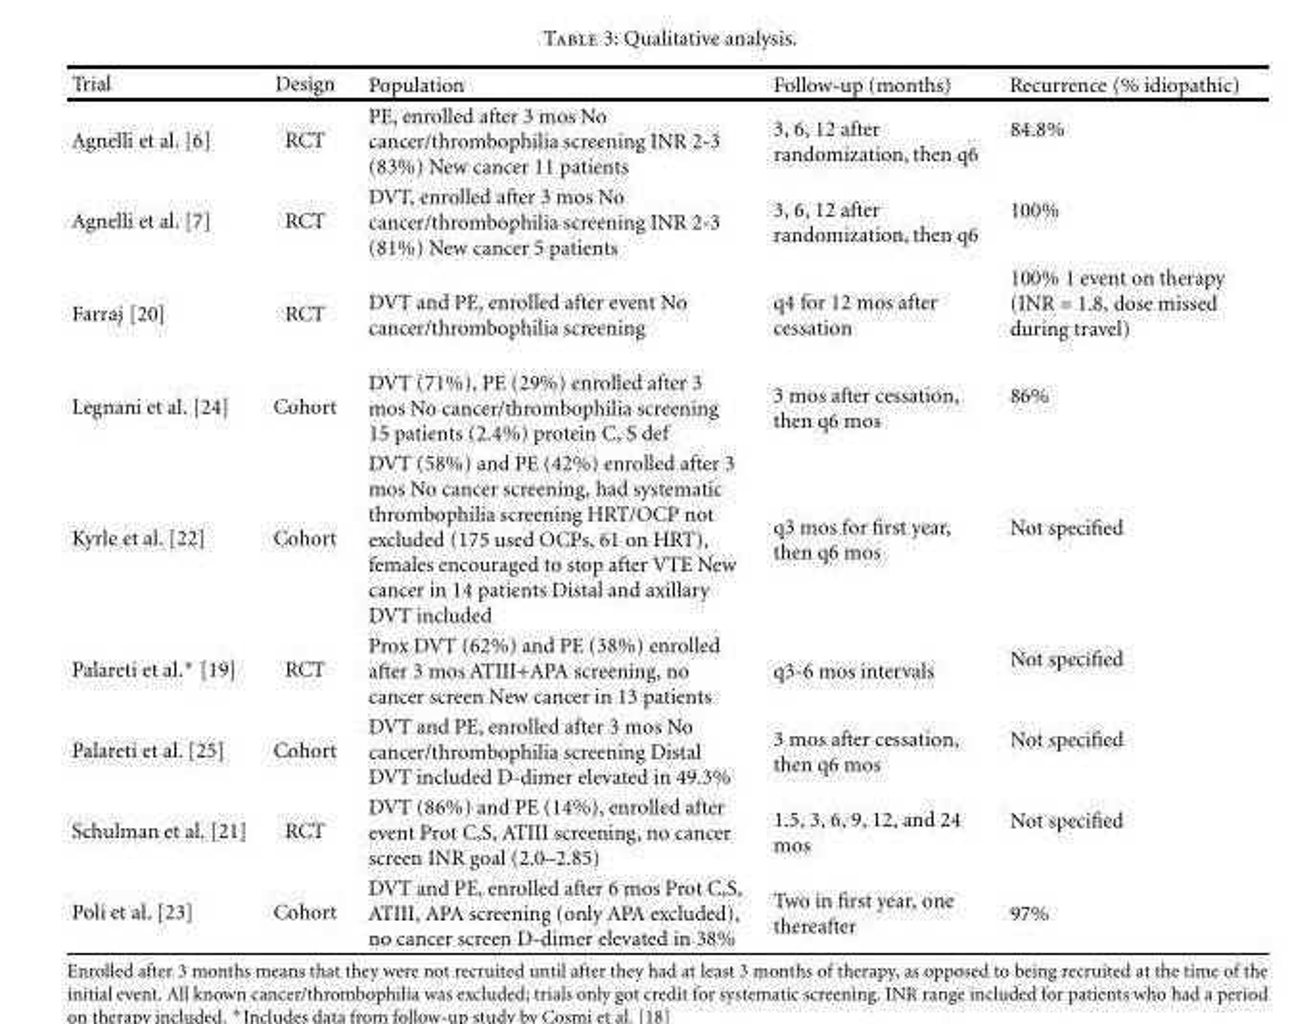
<table><thead><tr><td>Trial</td><td>Design</td><td>Population</td><td>Follow-up (months)</td><td>Recurrence (% idiopathic)</td></tr></thead><tbody><tr><td>Agnelli et al. [6]</td><td>RCT</td><td>PE, enrolled after 3 mos No cancer/thrombophilia screening INR 2-3 (83%) New cancer 11 patients</td><td>3, 6, 12 after randomization, then q6</td><td>84.8%</td></tr><tr><td>Agnelli et al. [7]</td><td>RCT</td><td>DVT, enrolled after 3 mos No cancer/thrombophilia screening INR 2-3 (81%) New cancer 5 patients</td><td>3, 6, 12 after randomization, then q6</td><td>100%</td></tr><tr><td>Farraj [20]</td><td>RCT</td><td>DVT and PE, enrolled after event No cancer/thrombophilia screening</td><td>q4 for 12 mos after cessation</td><td>100% 1 event on therapy (INR = 1.8, dose missed during travel)</td></tr><tr><td>Legnani et al. [24]</td><td>Cohort</td><td>DVT (71%), PE (29%) enrolled after 3 mos No cancer/thrombophilia screening 15 patients (2.4%) protein C, S def</td><td>3 mos after cessation, then q6 mos</td><td>86%</td></tr><tr><td>Kyrle et al. [22]</td><td>Cohort</td><td>DVT (58%) and PE (42%) enrolled after 3 mos No cancer screening, had systematic thrombophilia screening HRT/OCP not excluded (175 used OCPs, 61 on HRT), females encouraged to stop after VTE New cancer in 14 patients Distal and axillary DVT included</td><td>q3 mos for first year, then q6 mos</td><td>Not specified</td></tr><tr><td>Palareti et al.∗ [19]</td><td>RCT</td><td>Prox DVT (62%) and PE (38%) enrolled after 3 mos ATIII+APA screening, no cancer screen New cancer in 13 patients</td><td>q3-6 mos intervals</td><td>Not specified</td></tr><tr><td>Palareti et al. [25]</td><td>Cohort</td><td>DVT and PE, enrolled after 3 mos No cancer/thrombophilia screening Distal DVT included D-dimer elevated in 49.3%</td><td>3 mos after cessation, then q6 mos</td><td>Not specified</td></tr><tr><td>Schulman et al. [21]</td><td>RCT</td><td>DVT (86%) and PE (14%), enrolled after event Prot C,S, ATIII screening, no cancer screen INR goal (2.0–2.85)</td><td>1.5, 3, 6, 9, 12, and 24 mos</td><td>Not specified</td></tr><tr><td>Poli et al. [23]</td><td>Cohort</td><td>DVT and PE, enrolled after 6 mos Prot C,S, ATIII, APA screening (only APA excluded), no cancer screen D-dimer elevated in 38%</td><td>Two in first year, one thereafter</td><td>97%</td></tr></tbody></table>